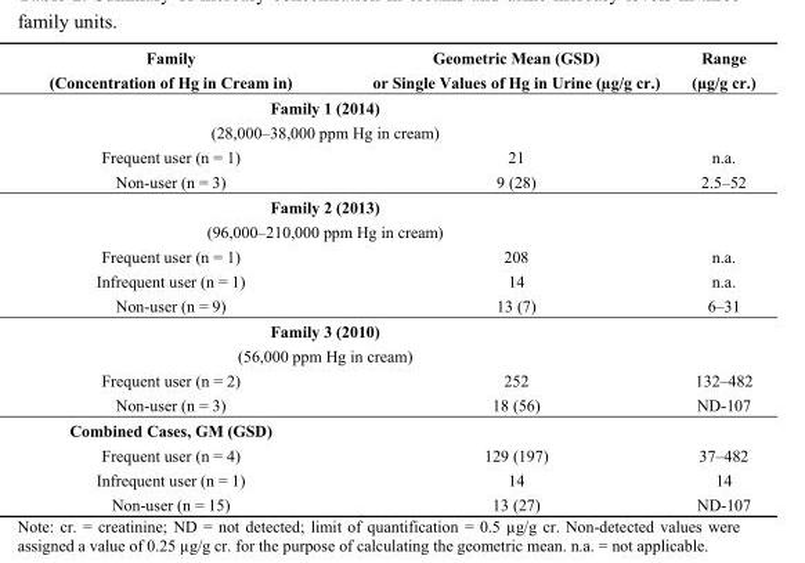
<table><thead><tr><td>Family (Concentration of Hg in Cream in)</td><td>Geometric Mean (GSD) or Single Values of Hg in Urine (µg/g cr.)</td><td>Range (µg/g cr.)</td></tr></thead><tbody><tr><td colspan="3">Family 1 (2014) (28,000–38,000 ppm Hg in cream)</td></tr><tr><td>Frequent user (n = 1)</td><td>21</td><td>n.a.</td></tr><tr><td>Non-user (n = 3)</td><td>9 (28)</td><td>2.5–52</td></tr><tr><td colspan="3">Family 2 (2013) (96,000–210,000 ppm Hg in cream)</td></tr><tr><td>Frequent user (n = 1)</td><td>208</td><td>n.a.</td></tr><tr><td>Infrequent user (n = 1)</td><td>14</td><td>n.a.</td></tr><tr><td>Non-user (n = 9)</td><td>13 (7)</td><td>6–31</td></tr><tr><td colspan="3">Family 3 (2010) (56,000 ppm Hg in cream)</td></tr><tr><td>Frequent user (n = 2)</td><td>252</td><td>132–482</td></tr><tr><td>Non-user (n = 3)</td><td>18 (56)</td><td>ND-107</td></tr><tr><td colspan="3">Combined Cases, GM (GSD)</td></tr><tr><td>Frequent user (n = 4)</td><td>129 (197)</td><td>37–482</td></tr><tr><td>Infrequent user (n = 1)</td><td>14</td><td>14</td></tr><tr><td>Non-user (n = 15)</td><td>13 (27)</td><td>ND-107</td></tr></tbody></table>